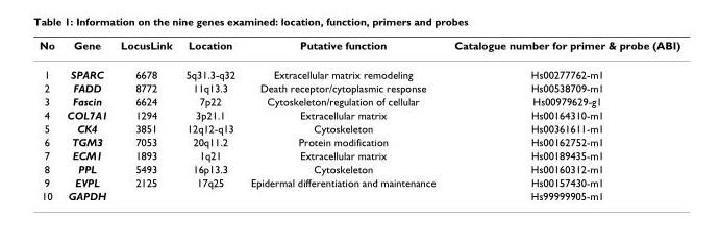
<table><thead><tr><td>No</td><td>Gene</td><td>LocusLink</td><td>Location</td><td>Putative function</td><td>Catalogue number for primer &amp; probe (ABI)</td></tr></thead><tbody><tr><td>1</td><td>SPARC</td><td>6678</td><td>5q31.3-q32</td><td>Extracellular matrix remodeling</td><td>Hs00277762-m1</td></tr><tr><td>2</td><td>FADD</td><td>8772</td><td>11q13.3</td><td>Death receptor/cytoplasmic response</td><td>Hs00538709-m1</td></tr><tr><td>3</td><td>Fascin</td><td>6624</td><td>7p22</td><td>Cytoskeleton/regulation of cellular</td><td>Hs00979629-g1</td></tr><tr><td>4</td><td>COL7A1</td><td>1294</td><td>3p21.1</td><td>Extracellular matrix</td><td>Hs00164310-m1</td></tr><tr><td>5</td><td>CK4</td><td>3851</td><td>12q12-q13</td><td>Cytoskeleton</td><td>Hs00361611-m1</td></tr><tr><td>6</td><td>TGM3</td><td>7053</td><td>20q11.2</td><td>Protein modification</td><td>Hs00162752-m1</td></tr><tr><td>7</td><td>ECM1</td><td>1893</td><td>1q21</td><td>Extracellular matrix</td><td>Hs00189435-m1</td></tr><tr><td>8</td><td>PPL</td><td>5493</td><td>16p13.3</td><td>Cytoskeleton</td><td>Hs00160312-m1</td></tr><tr><td>9</td><td>EVPL</td><td>2125</td><td>17q25</td><td>Epidermal differentiation and maintenance</td><td>Hs00157430-m1</td></tr><tr><td>10</td><td>GAPDH</td><td></td><td></td><td></td><td>Hs99999905-m1</td></tr></tbody></table>